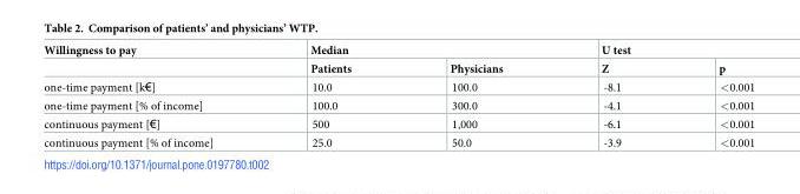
<table><thead><tr><td rowspan="2">Willingness to pay</td><td colspan="2">Median</td><td colspan="2">U test</td></tr><tr><td>Patients</td><td>Physicians</td><td>Z</td><td>p</td></tr></thead><tbody><tr><td>one-time payment [k€]</td><td>10.0</td><td>100.0</td><td>-8.1</td><td>&lt;0.001</td></tr><tr><td>one-time payment [% of income]</td><td>100.0</td><td>300.0</td><td>-4.1</td><td>&lt;0.001</td></tr><tr><td>continuous payment [€]</td><td>500</td><td>1,000</td><td>-6.1</td><td>&lt;0.001</td></tr><tr><td>continuous payment [% of income]</td><td>25.0</td><td>50.0</td><td>-3.9</td><td>&lt;0.001</td></tr></tbody></table>